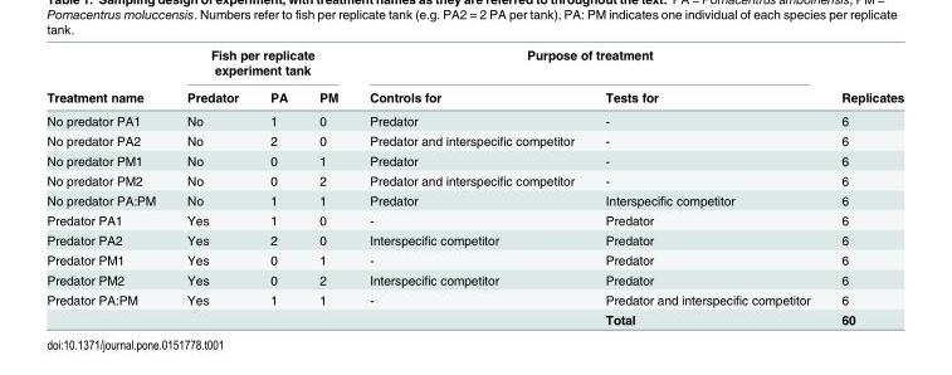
<table><thead><tr><td rowspan="2">Treatment name</td><td colspan="3">Fish per replicate experiment tank</td><td colspan="2">Purpose of treatment</td><td rowspan="2">Replicates</td></tr><tr><td>Predator</td><td>PA</td><td>PM</td><td>Controls for</td><td>Tests for</td></tr></thead><tbody><tr><td>No predator PA1</td><td>No</td><td>1</td><td>0</td><td>Predator</td><td>-</td><td>6</td></tr><tr><td>No predator PA2</td><td>No</td><td>2</td><td>0</td><td>Predator and interspecific competitor</td><td>-</td><td>6</td></tr><tr><td>No predator PM1</td><td>No</td><td>0</td><td>1</td><td>Predator</td><td>-</td><td>6</td></tr><tr><td>No predator PM2</td><td>No</td><td>0</td><td>2</td><td>Predator and interspecific competitor</td><td>-</td><td>6</td></tr><tr><td>No predator PA:PM</td><td>No</td><td>1</td><td>1</td><td>Predator</td><td>Interspecific competitor</td><td>6</td></tr><tr><td>Predator PA1</td><td>Yes</td><td>1</td><td>0</td><td>-</td><td>Predator</td><td>6</td></tr><tr><td>Predator PA2</td><td>Yes</td><td>2</td><td>0</td><td>Interspecific competitor</td><td>Predator</td><td>6</td></tr><tr><td>Predator PM1</td><td>Yes</td><td>0</td><td>1</td><td>-</td><td>Predator</td><td>6</td></tr><tr><td>Predator PM2</td><td>Yes</td><td>0</td><td>2</td><td>Interspecific competitor</td><td>Predator</td><td>6</td></tr><tr><td rowspan="2">Predator PA:PM</td><td>Yes</td><td>1</td><td>1</td><td>-</td><td>Predator and interspecific competitor</td><td>6</td></tr><tr><td></td><td></td><td></td><td></td><td>Total</td><td>60</td></tr></tbody></table>